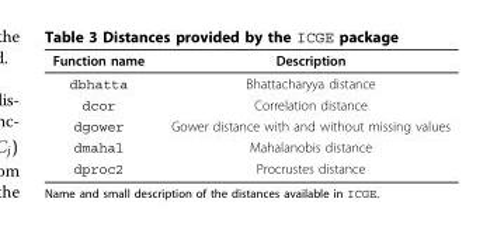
<table><thead><tr><td>Function name</td><td>Description</td></tr></thead><tbody><tr><td>dbhatta</td><td>Bhattacharyya distance</td></tr><tr><td>dcor</td><td>Correlation distance</td></tr><tr><td>dgower</td><td>Gower distance with and without missing values</td></tr><tr><td>dmahal</td><td>Mahalanobis distance</td></tr><tr><td>dproc2</td><td>Procrustes distance</td></tr></tbody></table>